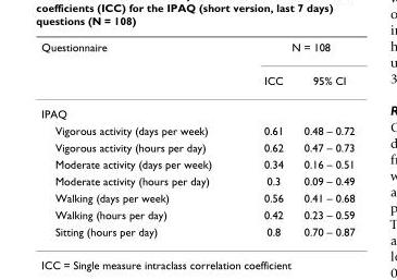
<table><thead><tr><td rowspan="2">Questionnaire</td><td colspan="2">N = 108</td></tr><tr><td>ICC</td><td>95% CI</td></tr></thead><tbody><tr><td colspan="3">IPAQ</td></tr><tr><td>Vigorous activity (days per week)</td><td>0.61</td><td>0.48 – 0.72</td></tr><tr><td>Vigorous activity (hours per day)</td><td>0.62</td><td>0.47 – 0.73</td></tr><tr><td>Moderate activity (days per week)</td><td>0.34</td><td>0.16 – 0.51</td></tr><tr><td>Moderate activity (hours per day)</td><td>0.3</td><td>0.09 – 0.49</td></tr><tr><td>Walking (days per week)</td><td>0.56</td><td>0.41 – 0.68</td></tr><tr><td>Walking (hours per day)</td><td>0.42</td><td>0.23 – 0.59</td></tr><tr><td>Sitting (hours per day)</td><td>0.8</td><td>0.70 – 0.87</td></tr></tbody></table>